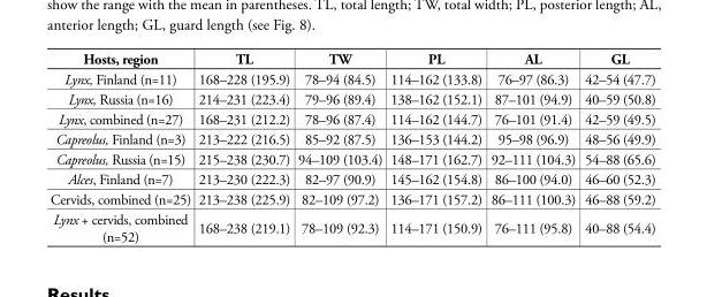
<table><thead><tr><td>Hosts, region</td><td>TL</td><td>TW</td><td>PL</td><td>AL</td><td>GL</td></tr></thead><tbody><tr><td>Lynx, Finland (n=11)</td><td>168–228 (195.9)</td><td>78–94 (84.5)</td><td>114–162 (133.8)</td><td>76–97 (86.3)</td><td>42–54 (47.7)</td></tr><tr><td>Lynx, Russia (n=16)</td><td>214–231 (223.4)</td><td>79–96 (89.4)</td><td>138–162 (152.1)</td><td>87–101 (94.9)</td><td>40–59 (50.8)</td></tr><tr><td>Lynx, combined (n=27)</td><td>168–231 (212.2)</td><td>78–96 (87.4)</td><td>114–162 (144.7)</td><td>76–101 (91.4)</td><td>42–59 (49.5)</td></tr><tr><td>Capreolus, Finland (n=3)</td><td>213–222 (216.5)</td><td>85–92 (87.5)</td><td>136–153 (144.2)</td><td>95–98 (96.9)</td><td>48–56 (49.9)</td></tr><tr><td>Capreolus, Russia (n=15)</td><td>215–238 (230.7)</td><td>94–109 (103.4)</td><td>148–171 (162.7)</td><td>92–111 (104.3)</td><td>54–88 (65.6)</td></tr><tr><td>Alces, Finland (n=7)</td><td>213–230 (222.3)</td><td>82–97 (90.9)</td><td>145–162 (154.8)</td><td>86–100 (94.0)</td><td>46–60 (52.3)</td></tr><tr><td>Cervids, combined (n=25)</td><td>213–238 (225.9)</td><td>82–109 (97.2)</td><td>136–171 (157.2)</td><td>86–111 (100.3)</td><td>46–88 (59.2)</td></tr><tr><td>Lynx + cervids, combined (n=52)</td><td>168–238 (219.1)</td><td>78–109 (92.3)</td><td>114–171 (150.9)</td><td>76–111 (95.8)</td><td>40–88 (54.4)</td></tr></tbody></table>